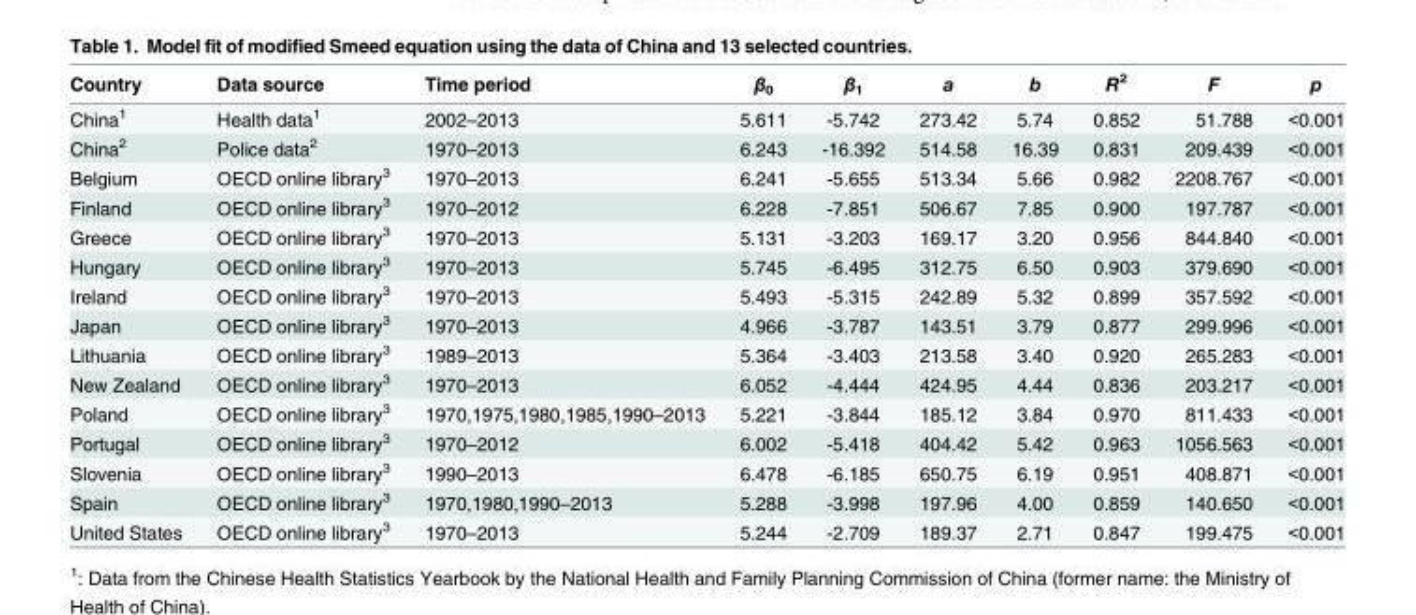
<table><thead><tr><td>Country</td><td>Data source</td><td>Time period</td><td>β<sub>0</sub></td><td>β<sub>1</sub></td><td>a</td><td>b</td><td>R<sup>2</sup></td><td>F</td><td>p</td></tr></thead><tbody><tr><td>China<sup>1</sup></td><td>Health data<sup>1</sup></td><td>2002–2013</td><td>5.611</td><td>-5.742</td><td>273.42</td><td>5.74</td><td>0.852</td><td>51.788</td><td>&lt;0.001</td></tr><tr><td>China<sup>2</sup></td><td>Police data<sup>2</sup></td><td>1970–2013</td><td>6.243</td><td>-16.392</td><td>514.58</td><td>16.39</td><td>0.831</td><td>209.439</td><td>&lt;0.001</td></tr><tr><td>Belgium</td><td>OECD online library<sup>3</sup></td><td>1970–2013</td><td>6.241</td><td>-5.655</td><td>513.34</td><td>5.66</td><td>0.982</td><td>2208.767</td><td>&lt;0.001</td></tr><tr><td>Finland</td><td>OECD online library<sup>3</sup></td><td>1970–2012</td><td>6.228</td><td>-7.851</td><td>506.67</td><td>7.85</td><td>0.900</td><td>197.787</td><td>&lt;0.001</td></tr><tr><td>Greece</td><td>OECD online library<sup>3</sup></td><td>1970–2013</td><td>5.131</td><td>-3.203</td><td>169.17</td><td>3.20</td><td>0.956</td><td>844.840</td><td>&lt;0.001</td></tr><tr><td>Hungary</td><td>OECD online library<sup>3</sup></td><td>1970–2013</td><td>5.745</td><td>-6.495</td><td>312.75</td><td>6.50</td><td>0.903</td><td>379.690</td><td>&lt;0.001</td></tr><tr><td>Ireland</td><td>OECD online library<sup>3</sup></td><td>1970–2013</td><td>5.493</td><td>-5.315</td><td>242.89</td><td>5.32</td><td>0.899</td><td>357.592</td><td>&lt;0.001</td></tr><tr><td>Japan</td><td>OECD online library<sup>3</sup></td><td>1970–2013</td><td>4.966</td><td>-3.787</td><td>143.51</td><td>3.79</td><td>0.877</td><td>299.996</td><td>&lt;0.001</td></tr><tr><td>Lithuania</td><td>OECD online library<sup>3</sup></td><td>1989–2013</td><td>5.364</td><td>-3.403</td><td>213.58</td><td>3.40</td><td>0.920</td><td>265.283</td><td>&lt;0.001</td></tr><tr><td>New Zealand</td><td>OECD online library<sup>3</sup></td><td>1970–2013</td><td>6.052</td><td>-4.444</td><td>424.95</td><td>4.44</td><td>0.836</td><td>203.217</td><td>&lt;0.001</td></tr><tr><td>Poland</td><td>OECD online library<sup>3</sup></td><td>1970,1975,1980,1985,1990–2013</td><td>5.221</td><td>-3.844</td><td>185.12</td><td>3.84</td><td>0.970</td><td>811.433</td><td>&lt;0.001</td></tr><tr><td>Portugal</td><td>OECD online library<sup>3</sup></td><td>1970–2012</td><td>6.002</td><td>-5.418</td><td>404.42</td><td>5.42</td><td>0.963</td><td>1056.563</td><td>&lt;0.001</td></tr><tr><td>Slovenia</td><td>OECD online library<sup>3</sup></td><td>1990–2013</td><td>6.478</td><td>-6.185</td><td>650.75</td><td>6.19</td><td>0.951</td><td>408.871</td><td>&lt;0.001</td></tr><tr><td>Spain</td><td>OECD online library<sup>3</sup></td><td>1970,1980,1990–2013</td><td>5.288</td><td>-3.998</td><td>197.96</td><td>4.00</td><td>0.859</td><td>140.650</td><td>&lt;0.001</td></tr><tr><td>United States</td><td>OECD online library<sup>3</sup></td><td>1970–2013</td><td>5.244</td><td>-2.709</td><td>189.37</td><td>2.71</td><td>0.847</td><td>199.475</td><td>&lt;0.001</td></tr></tbody></table>